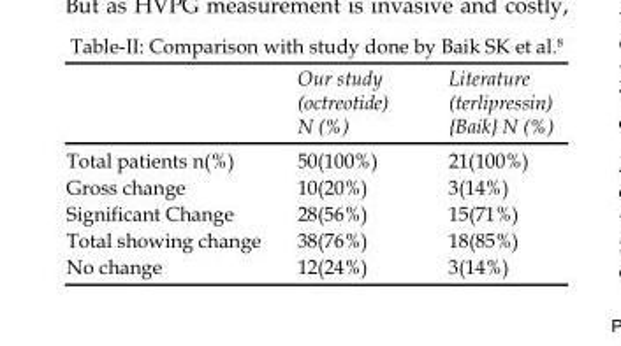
<table><thead><tr><td></td><td>Our study (octreotide) N (%)</td><td>Literature (terlipressin) {Baik} N (%)</td></tr></thead><tbody><tr><td>Total patients n(%)</td><td>50(100%)</td><td>21(100%)</td></tr><tr><td>Gross change</td><td>10(20%)</td><td>3(14%)</td></tr><tr><td>Significant Change</td><td>28(56%)</td><td>15(71%)</td></tr><tr><td>Total showing change</td><td>38(76%)</td><td>18(85%)</td></tr><tr><td>No change</td><td>12(24%)</td><td>3(14%)</td></tr></tbody></table>